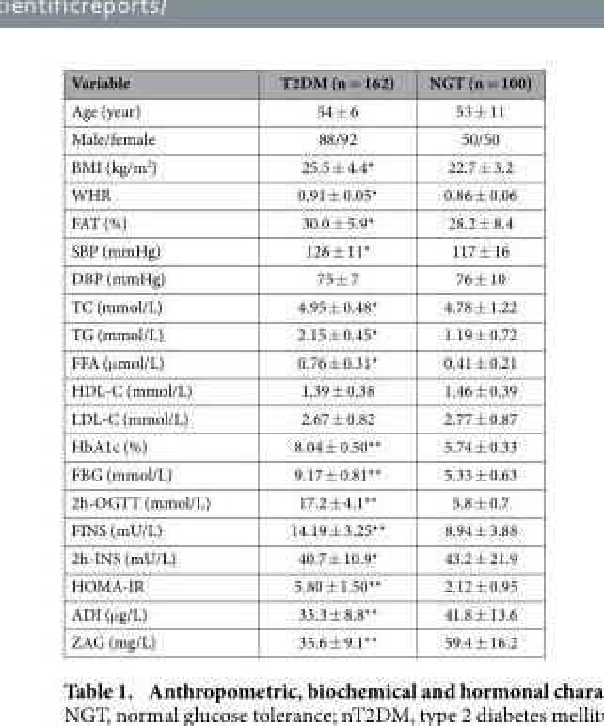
<table><thead><tr><td>Variable</td><td>T2DM (n = 162)</td><td>NGT (n = 100)</td></tr></thead><tbody><tr><td>Age (year)</td><td>54 ± 6</td><td>53 ± 11</td></tr><tr><td>Male/female</td><td>88/92</td><td>50/50</td></tr><tr><td>BMI (kg/m<sup>2</sup>)</td><td>25.5 ± 4.4*</td><td>22.7 ± 3.2</td></tr><tr><td>WHR</td><td>0.91 ± 0.05*</td><td>0.86 ± 0.06</td></tr><tr><td>FAT (%)</td><td>30.0 ± 5.9*</td><td>28.2 ± 8.4</td></tr><tr><td>SBP (mmHg)</td><td>126 ± 11*</td><td>117 ± 16</td></tr><tr><td>DBP (mmHg)</td><td>75 ± 7</td><td>76 ± 10</td></tr><tr><td>TC (mmol/L)</td><td>4.95 ± 0.48*</td><td>4.78 ± 1.22</td></tr><tr><td>TG (mmol/L)</td><td>2.15 ± 0.45*</td><td>1.19 ± 0.72</td></tr><tr><td>FFA (μ mol/L)</td><td>0.76 ± 0.31*</td><td>0.41 ± 0.21</td></tr><tr><td>HDL-C (mmol/L)</td><td>1.39 ± 0.38</td><td>1.46 ± 0.39</td></tr><tr><td>LDL-C (mmol/L)</td><td>2.67 ± 0.82</td><td>2.77 ± 0.87</td></tr><tr><td>HbA1c (%)</td><td>8.04 ± 0.50**</td><td>5.74 ± 0.33</td></tr><tr><td>FBG (mmol/L)</td><td>9.17 ± 0.81**</td><td>5.33 ± 0.63</td></tr><tr><td>2h-OGTT (mmol/L)</td><td>17.2 ± 4.1**</td><td>5.8 ± 0.7</td></tr><tr><td>FINS (mU/L)</td><td>14.19 ± 3.25**</td><td>8.94 ± 3.88</td></tr><tr><td>2h-INS (mU/L)</td><td>40.7 ± 10.9*</td><td>43.2 ± 21.9</td></tr><tr><td>HOMA-IR</td><td>5.80 ± 1.50**</td><td>2.12 ± 0.95</td></tr><tr><td>ADI (μ g/L)</td><td>33.3 ± 8.8**</td><td>41.8 ± 13.6</td></tr><tr><td>ZAG (mg/L)</td><td>35.6 ± 9.1**</td><td>59.4 ± 16.2</td></tr></tbody></table>